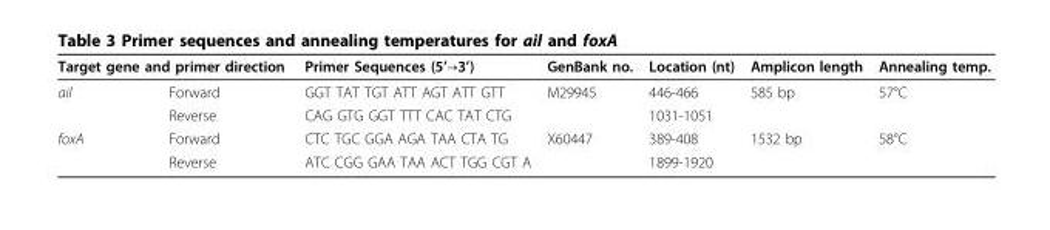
<table><thead><tr><td colspan="2">Target gene and primer direction</td><td rowspan="2">Primer Sequences (5’→3’) GGT TAT TGT ATT AGT ATT GTT</td><td rowspan="2">GenBank no. M29945</td><td rowspan="2">Location (nt) 446-466</td><td rowspan="2">Amplicon length 585 bp</td><td rowspan="2">Annealing temp. 57°C</td></tr><tr><td>ail</td><td>Forward</td></tr></thead><tbody><tr><td></td><td>Reverse</td><td>CAG GTG GGT TTT CAC TAT CTG</td><td></td><td>1031-1051</td><td></td><td></td></tr><tr><td rowspan="2">foxA</td><td>Forward</td><td>CTC TGC GGA AGA TAA CTA TG</td><td>X60447</td><td>389-408</td><td>1532 bp</td><td>58°C</td></tr><tr><td>Reverse</td><td>ATC CGG GAA TAA ACT TGG CGT A</td><td></td><td>1899-1920</td><td></td><td></td></tr></tbody></table>